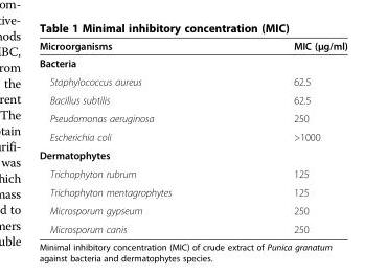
<table><thead><tr><td>Microorganisms</td><td>MIC (μg/ml)</td></tr></thead><tbody><tr><td colspan="2">Bacteria</td></tr><tr><td>Staphylococcus aureus</td><td>62.5</td></tr><tr><td>Bacillus subtilis</td><td>62.5</td></tr><tr><td>Pseudomonas aeruginosa</td><td>250</td></tr><tr><td>Escherichia coli</td><td>&gt;1000</td></tr><tr><td colspan="2">Dermatophytes</td></tr><tr><td>Trichophyton rubrum</td><td>125</td></tr><tr><td>Trichophyton mentagrophytes</td><td>125</td></tr><tr><td>Microsporum gypseum</td><td>250</td></tr><tr><td>Microsporum canis</td><td>250</td></tr></tbody></table>